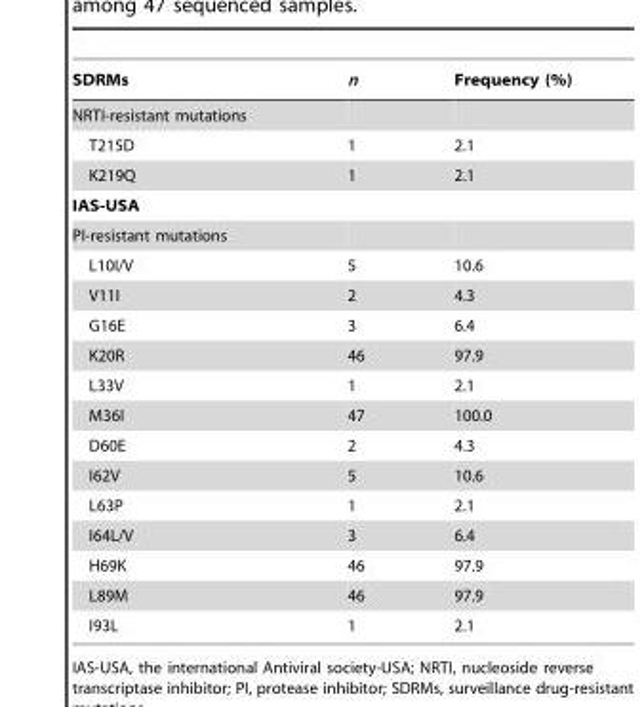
<table><thead><tr><td>SDRMs</td><td>n</td><td>Frequency (%)</td></tr></thead><tbody><tr><td colspan="3">NRTI-resistant mutations</td></tr><tr><td>T215D</td><td>1</td><td>2.1</td></tr><tr><td>K219Q</td><td>1</td><td>2.1</td></tr><tr><td colspan="3">IAS-USA</td></tr><tr><td colspan="3">PI-resistant mutations</td></tr><tr><td>L10I/V</td><td>5</td><td>10.6</td></tr><tr><td>V11I</td><td>2</td><td>4.3</td></tr><tr><td>G16E</td><td>3</td><td>6.4</td></tr><tr><td>K20R</td><td>46</td><td>97.9</td></tr><tr><td>L33V</td><td>1</td><td>2.1</td></tr><tr><td>M36I</td><td>47</td><td>100.0</td></tr><tr><td>D60E</td><td>2</td><td>4.3</td></tr><tr><td>I62V</td><td>5</td><td>10.6</td></tr><tr><td>L63P</td><td>1</td><td>2.1</td></tr><tr><td>I64L/V</td><td>3</td><td>6.4</td></tr><tr><td>H69K</td><td>46</td><td>97.9</td></tr><tr><td>L89M</td><td>46</td><td>97.9</td></tr><tr><td>I93L</td><td>1</td><td>2.1</td></tr></tbody></table>